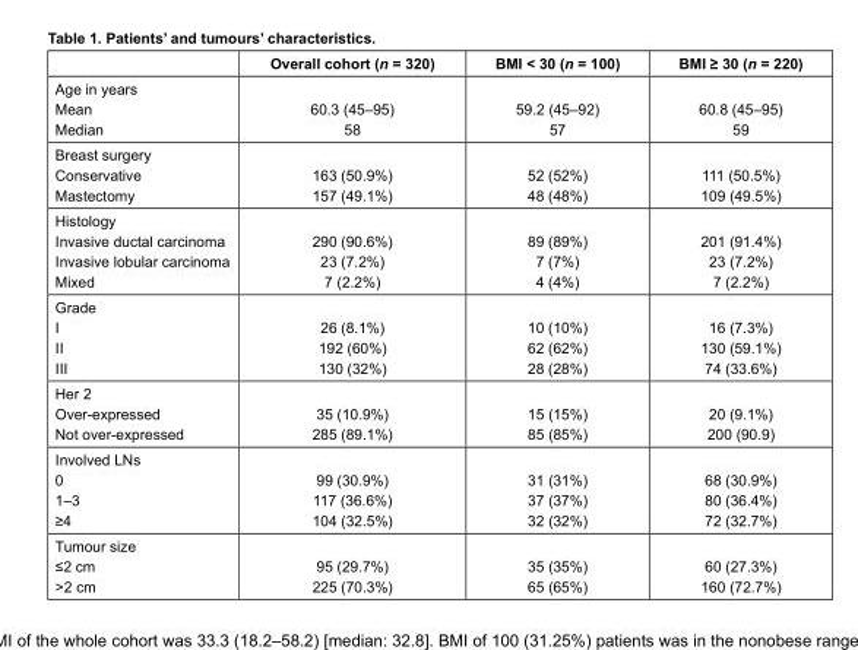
<table><thead><tr><td></td><td>Overall cohort (n = 320)</td><td>BMI &lt; 30 (n = 100)</td><td>BMI ≥ 30 (n = 220)</td></tr></thead><tbody><tr><td>Age in years Mean Median</td><td>60.3 (45–95) 58</td><td>59.2 (45–92) 57</td><td>60.8 (45–95) 59</td></tr><tr><td>Breast surgery Conservative Mastectomy</td><td>163 (50.9%) 157 (49.1%)</td><td>52 (52%) 48 (48%)</td><td>111 (50.5%) 109 (49.5%)</td></tr><tr><td>Histology Invasive ductal carcinoma Invasive lobular carcinoma Mixed</td><td>290 (90.6%) 23 (7.2%) 7 (2.2%)</td><td>89 (89%) 7 (7%) 4 (4%)</td><td>201 (91.4%) 23 (7.2%) 7 (2.2%)</td></tr><tr><td>Grade I II III</td><td>26 (8.1%) 192 (60%) 130 (32%)</td><td>10 (10%) 62 (62%) 28 (28%)</td><td>16 (7.3%) 130 (59.1%) 74 (33.6%)</td></tr><tr><td>Her 2 Over-expressed Not over-expressed</td><td>35 (10.9%) 285 (89.1%)</td><td>15 (15%) 85 (85%)</td><td>20 (9.1%) 200 (90.9)</td></tr><tr><td>Involved LNs 0 1–3 ≥4</td><td>99 (30.9%) 117 (36.6%) 104 (32.5%)</td><td>31 (31%) 37 (37%) 32 (32%)</td><td>68 (30.9%) 80 (36.4%) 72 (32.7%)</td></tr><tr><td>Tumour size ≤2 cm &gt;2 cm</td><td>95 (29.7%) 225 (70.3%)</td><td>35 (35%) 65 (65%)</td><td>60 (27.3%) 160 (72.7%)</td></tr></tbody></table>